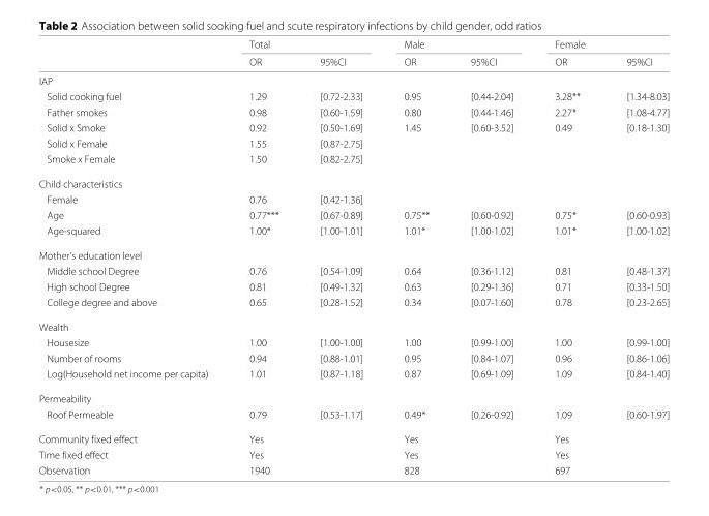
<table><thead><tr><td rowspan="2"></td><td rowspan="2">Total OR</td><td rowspan="2">95%CI</td><td rowspan="2">Male OR</td><td rowspan="2">95%CI</td><td rowspan="2">Female OR</td><td rowspan="2">95%CI</td></tr><tr></tr></thead><tbody><tr><td colspan="7">IAP</td></tr><tr><td>Solid cooking fuel</td><td>1.29</td><td>[0.72-2.33]</td><td>0.95</td><td>[0.44-2.04]</td><td>3.28**</td><td>[1.34-8.03]</td></tr><tr><td>Father smokes</td><td>0.98</td><td>[0.60-1.59]</td><td>0.80</td><td>[0.44-1.46]</td><td>2.27*</td><td>[1.08-4.77]</td></tr><tr><td>Solid x Smoke</td><td>0.92</td><td>[0.50-1.69]</td><td>1.45</td><td>[0.60-3.52]</td><td>0.49</td><td>[0.18-1.30]</td></tr><tr><td>Solid x Female</td><td>1.55</td><td>[0.87-2.75]</td><td></td><td></td><td></td><td></td></tr><tr><td>Smoke x Female</td><td>1.50</td><td>[0.82-2.75]</td><td></td><td></td><td></td><td></td></tr><tr><td colspan="7">Child characteristics</td></tr><tr><td>Female</td><td>0.76</td><td>[0.42-1.36]</td><td></td><td></td><td></td><td></td></tr><tr><td>Age</td><td>0.77***</td><td>[0.67-0.89]</td><td>0.75**</td><td>[0.60-0.92]</td><td>0.75*</td><td>[0.60-0.93]</td></tr><tr><td>Age-squared</td><td>1.00*</td><td>[1.00-1.01]</td><td>1.01*</td><td>[1.00-1.02]</td><td>1.01*</td><td>[1.00-1.02]</td></tr><tr><td colspan="7">Mother’s education level</td></tr><tr><td>Middle school Degree</td><td>0.76</td><td>[0.54-1.09]</td><td>0.64</td><td>[0.36-1.12]</td><td>0.81</td><td>[0.48-1.37]</td></tr><tr><td>High school Degree</td><td>0.81</td><td>[0.49-1.32]</td><td>0.63</td><td>[0.29-1.36]</td><td>0.71</td><td>[0.33-1.50]</td></tr><tr><td>College degree and above</td><td>0.65</td><td>[0.28-1.52]</td><td>0.34</td><td>[0.07-1.60]</td><td>0.78</td><td>[0.23-2.65]</td></tr><tr><td colspan="7">Wealth</td></tr><tr><td>Housesize</td><td>1.00</td><td>[1.00-1.00]</td><td>1.00</td><td>[0.99-1.00]</td><td>1.00</td><td>[0.99-1.00]</td></tr><tr><td>Number of rooms</td><td>0.94</td><td>[0.88-1.01]</td><td>0.95</td><td>[0.84-1.07]</td><td>0.96</td><td>[0.86-1.06]</td></tr><tr><td>Log(Household net income per capita)</td><td>1.01</td><td>[0.87-1.18]</td><td>0.87</td><td>[0.69-1.09]</td><td>1.09</td><td>[0.84-1.40]</td></tr><tr><td colspan="7">Permeability</td></tr><tr><td>Roof Permeable</td><td>0.79</td><td>[0.53-1.17]</td><td>0.49*</td><td>[0.26-0.92]</td><td>1.09</td><td>[0.60-1.97]</td></tr><tr><td>Community fixed effect</td><td>Yes</td><td></td><td>Yes</td><td></td><td>Yes</td><td></td></tr><tr><td>Time fixed effect</td><td>Yes</td><td></td><td>Yes</td><td></td><td>Yes</td><td></td></tr><tr><td>Observation</td><td>1940</td><td></td><td>828</td><td></td><td>697</td><td></td></tr></tbody></table>